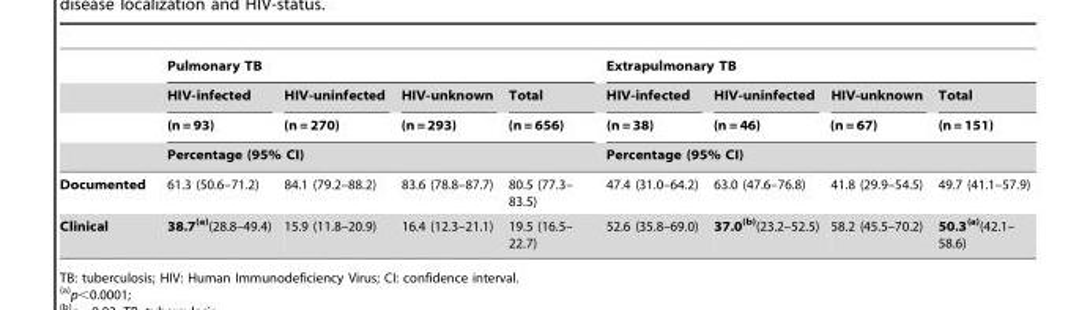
<table><thead><tr><td rowspan="4"></td><td colspan="4">Pulmonary TB</td><td colspan="4">Extrapulmonary TB</td></tr><tr><td>HIV-infected</td><td>HIV-uninfected</td><td>HIV-unknown</td><td>Total</td><td>HIV-infected</td><td>HIV-uninfected</td><td>HIV-unknown</td><td>Total</td></tr><tr><td rowspan="2" colspan="4">(n = 93) (n = 270) (n = 293) (n = 656) Percentage (95% CI)</td><td rowspan="2" colspan="4">(n = 38) (n = 46) (n = 67) (n = 151) Percentage (95% CI)</td></tr><tr></tr></thead><tbody><tr><td>Documented</td><td>61.3 (50.6–71.2)</td><td>84.1 (79.2–88.2)</td><td>83.6 (78.8–87.7)</td><td>80.5 (77.3– 83.5)</td><td>47.4 (31.0–64.2)</td><td>63.0 (47.6–76.8)</td><td>41.8 (29.9–54.5)</td><td>49.7 (41.1–57.9)</td></tr><tr><td>Clinical</td><td>38.7(a)(28.8–49.4)</td><td>15.9 (11.8–20.9)</td><td>16.4 (12.3–21.1)</td><td>19.5 (16.5– 22.7)</td><td>52.6 (35.8–69.0)</td><td>37.0(b)(23.2–52.5)</td><td>58.2 (45.5–70.2)</td><td>50.3(a)(42.1– 58.6)</td></tr></tbody></table>